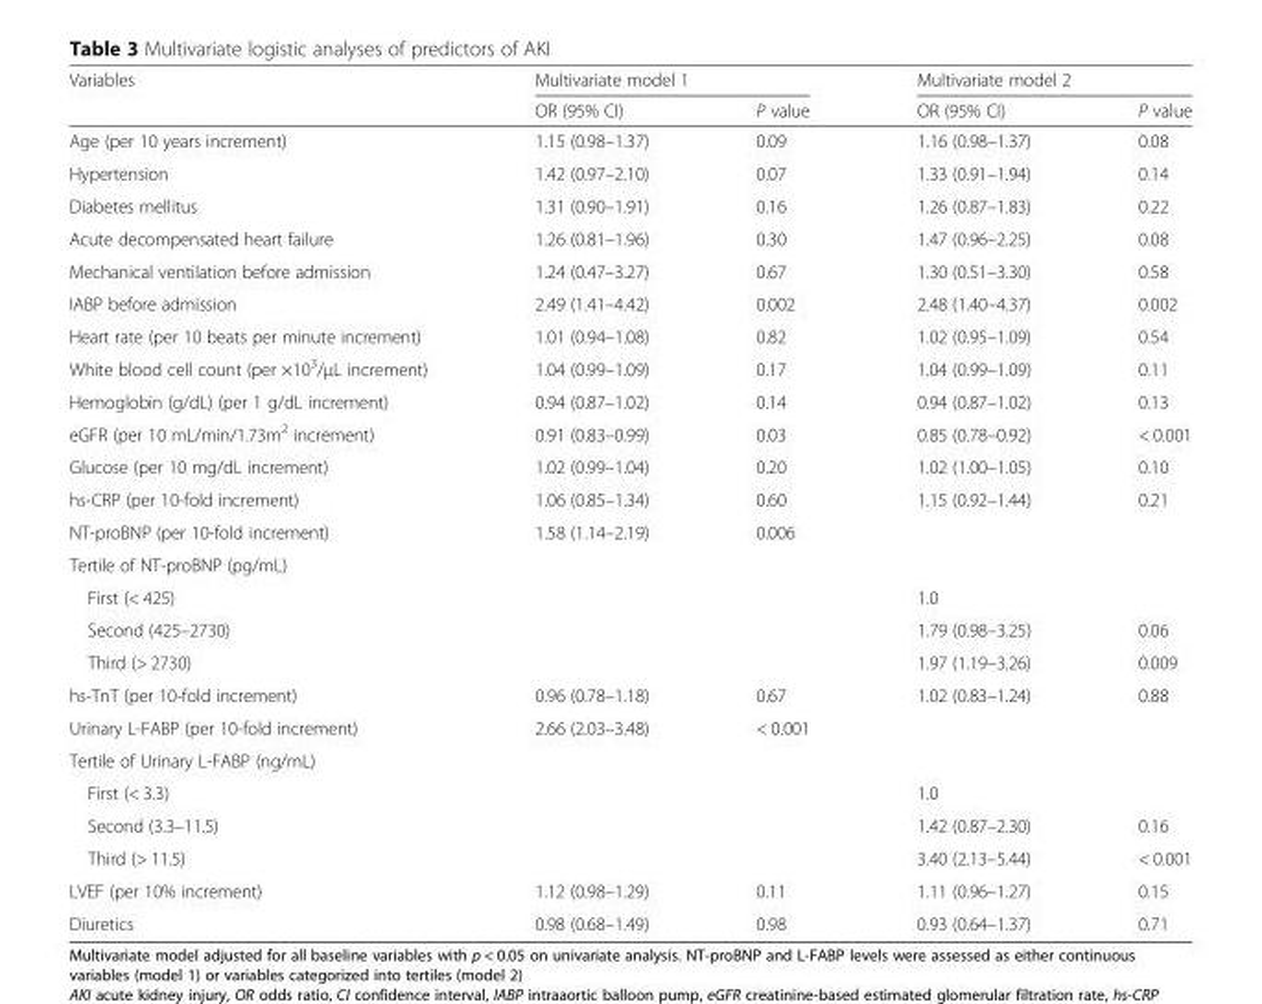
<table><thead><tr><td rowspan="2">Variables</td><td colspan="2">Multivariate model 1</td><td colspan="2">Multivariate model 2</td></tr><tr><td>OR (95% CI)</td><td>P value</td><td>OR (95% CI)</td><td>P value</td></tr></thead><tbody><tr><td>Age (per 10 years increment)</td><td>1.15 (0.98–1.37)</td><td>0.09</td><td>1.16 (0.98–1.37)</td><td>0.08</td></tr><tr><td>Hypertension</td><td>1.42 (0.97–2.10)</td><td>0.07</td><td>1.33 (0.91–1.94)</td><td>0.14</td></tr><tr><td>Diabetes mellitus</td><td>1.31 (0.90–1.91)</td><td>0.16</td><td>1.26 (0.87–1.83)</td><td>0.22</td></tr><tr><td>Acute decompensated heart failure</td><td>1.26 (0.81–1.96)</td><td>0.30</td><td>1.47 (0.96–2.25)</td><td>0.08</td></tr><tr><td>Mechanical ventilation before admission</td><td>1.24 (0.47–3.27)</td><td>0.67</td><td>1.30 (0.51–3.30)</td><td>0.58</td></tr><tr><td>IABP before admission</td><td>2.49 (1.41–4.42)</td><td>0.002</td><td>2.48 (1.40–4.37)</td><td>0.002</td></tr><tr><td>Heart rate (per 10 beats per minute increment)</td><td>1.01 (0.94–1.08)</td><td>0.82</td><td>1.02 (0.95–1.09)</td><td>0.54</td></tr><tr><td>White blood cell count (per ×10<sup>3</sup>/μL increment)</td><td>1.04 (0.99–1.09)</td><td>0.17</td><td>1.04 (0.99–1.09)</td><td>0.11</td></tr><tr><td>Hemoglobin (g/dL) (per 1 g/dL increment)</td><td>0.94 (0.87–1.02)</td><td>0.14</td><td>0.94 (0.87–1.02)</td><td>0.13</td></tr><tr><td>eGFR (per 10 mL/min/1.73m<sup>2</sup> increment)</td><td>0.91 (0.83–0.99)</td><td>0.03</td><td>0.85 (0.78–0.92)</td><td>&lt; 0.001</td></tr><tr><td>Glucose (per 10 mg/dL increment)</td><td>1.02 (0.99–1.04)</td><td>0.20</td><td>1.02 (1.00–1.05)</td><td>0.10</td></tr><tr><td>hs-CRP (per 10-fold increment)</td><td>1.06 (0.85–1.34)</td><td>0.60</td><td>1.15 (0.92–1.44)</td><td>0.21</td></tr><tr><td>NT-proBNP (per 10-fold increment)</td><td>1.58 (1.14–2.19)</td><td>0.006</td><td></td><td></td></tr><tr><td colspan="5">Tertile of NT-proBNP (pg/mL)</td></tr><tr><td>First (&lt; 425)</td><td></td><td></td><td>1.0</td><td></td></tr><tr><td>Second (425–2730)</td><td></td><td></td><td>1.79 (0.98–3.25)</td><td>0.06</td></tr><tr><td>Third (&gt; 2730)</td><td></td><td></td><td>1.97 (1.19–3.26)</td><td>0.009</td></tr><tr><td>hs-TnT (per 10-fold increment)</td><td>0.96 (0.78–1.18)</td><td>0.67</td><td>1.02 (0.83–1.24)</td><td>0.88</td></tr><tr><td>Urinary L-FABP (per 10-fold increment)</td><td>2.66 (2.03–3.48)</td><td>&lt; 0.001</td><td></td><td></td></tr><tr><td colspan="5">Tertile of Urinary L-FABP (ng/mL)</td></tr><tr><td>First (&lt; 3.3)</td><td></td><td></td><td>1.0</td><td></td></tr><tr><td>Second (3.3–11.5)</td><td></td><td></td><td>1.42 (0.87–2.30)</td><td>0.16</td></tr><tr><td>Third (&gt; 11.5)</td><td></td><td></td><td>3.40 (2.13–5.44)</td><td>&lt; 0.001</td></tr><tr><td>LVEF (per 10% increment)</td><td>1.12 (0.98–1.29)</td><td>0.11</td><td>1.11 (0.96–1.27)</td><td>0.15</td></tr><tr><td>Diuretics</td><td>0.98 (0.68–1.49)</td><td>0.98</td><td>0.93 (0.64–1.37)</td><td>0.71</td></tr></tbody></table>